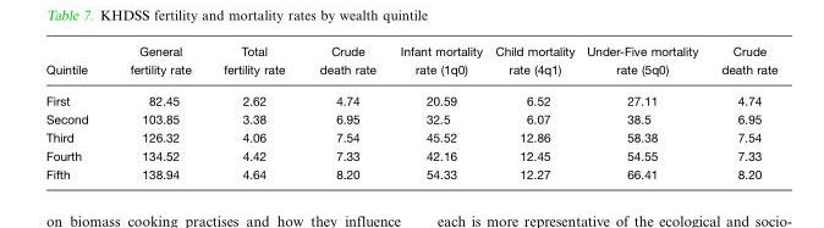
<table><thead><tr><td>Quintile</td><td>General fertility rate</td><td>Total fertility rate</td><td>Crude death rate</td><td>Infant mortality rate (1q0)</td><td>Child mortality rate (4q1)</td><td>Under-Five mortality rate (5q0)</td><td>Crude death rate</td></tr></thead><tbody><tr><td>First</td><td>82.45</td><td>2.62</td><td>4.74</td><td>20.59</td><td>6.52</td><td>27.11</td><td>4.74</td></tr><tr><td>Second</td><td>103.85</td><td>3.38</td><td>6.95</td><td>32.5</td><td>6.07</td><td>38.5</td><td>6.95</td></tr><tr><td>Third</td><td>126.32</td><td>4.06</td><td>7.54</td><td>45.52</td><td>12.86</td><td>58.38</td><td>7.54</td></tr><tr><td>Fourth</td><td>134.52</td><td>4.42</td><td>7.33</td><td>42.16</td><td>12.45</td><td>54.55</td><td>7.33</td></tr><tr><td>Fifth</td><td>138.94</td><td>4.64</td><td>8.20</td><td>54.33</td><td>12.27</td><td>66.41</td><td>8.20</td></tr></tbody></table>